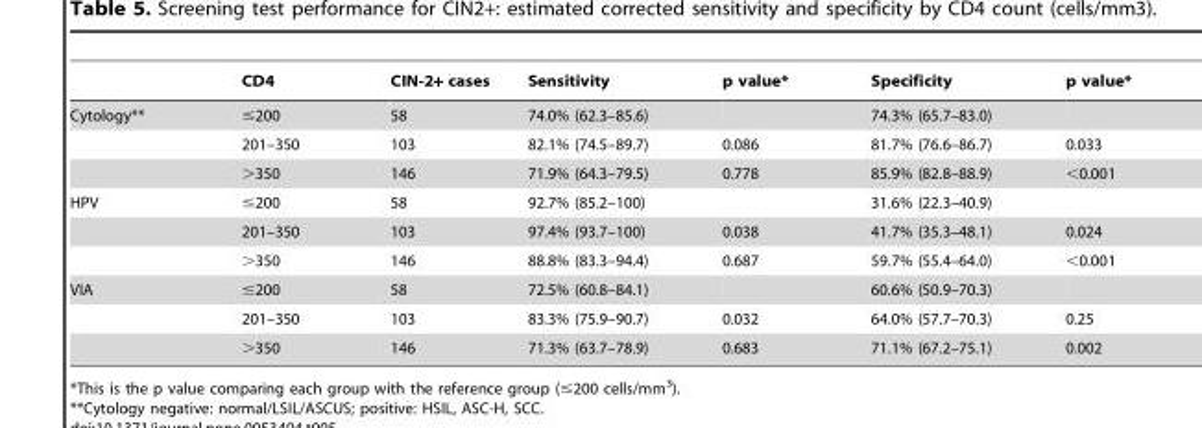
<table><thead><tr><td></td><td>CD4</td><td>CIN-2+ cases</td><td>Sensitivity</td><td>p value*</td><td>Specificity</td><td>p value*</td></tr></thead><tbody><tr><td rowspan="3">Cytology**</td><td>≤200</td><td>58</td><td>74.0% (62.3–85.6)</td><td></td><td>74.3% (65.7–83.0)</td><td></td></tr><tr><td>201–350</td><td>103</td><td>82.1% (74.5–89.7)</td><td>0.086</td><td>81.7% (76.6–86.7)</td><td>0.033</td></tr><tr><td>&gt;350</td><td>146</td><td>71.9% (64.3–79.5)</td><td>0.778</td><td>85.9% (82.8–88.9)</td><td>&lt;0.001</td></tr><tr><td rowspan="3">HPV</td><td>≤200</td><td>58</td><td>92.7% (85.2–100)</td><td></td><td>31.6% (22.3–40.9)</td><td></td></tr><tr><td>201–350</td><td>103</td><td>97.4% (93.7–100)</td><td>0.038</td><td>41.7% (35.3–48.1)</td><td>0.024</td></tr><tr><td>&gt;350</td><td>146</td><td>88.8% (83.3–94.4)</td><td>0.687</td><td>59.7% (55.4–64.0)</td><td>&lt;0.001</td></tr><tr><td rowspan="3">VIA</td><td>≤200</td><td>58</td><td>72.5% (60.8–84.1)</td><td></td><td>60.6% (50.9–70.3)</td><td></td></tr><tr><td>201–350</td><td>103</td><td>83.3% (75.9–90.7)</td><td>0.032</td><td>64.0% (57.7–70.3)</td><td>0.25</td></tr><tr><td>&gt;350</td><td>146</td><td>71.3% (63.7–78.9)</td><td>0.683</td><td>71.1% (67.2–75.1)</td><td>0.002</td></tr></tbody></table>